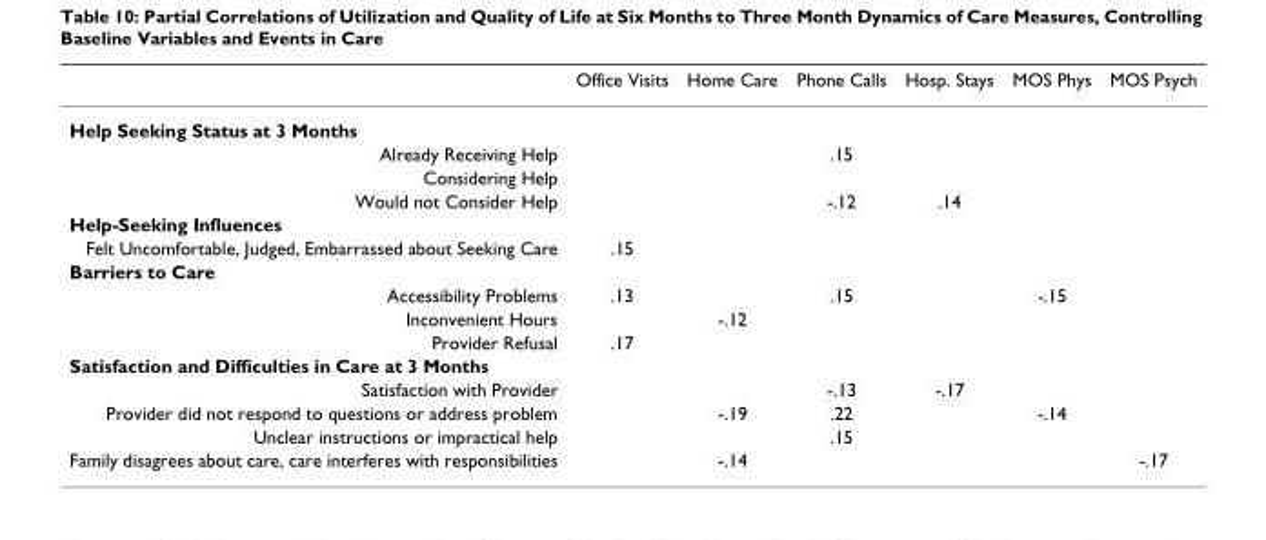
<table><thead><tr><td></td><td>Office Visits</td><td>Home Care</td><td>Phone Calls</td><td>Hosp. Stays</td><td>MOS Phys</td><td>MOS Psych</td></tr></thead><tbody><tr><td colspan="7">Help Seeking Status at 3 Months</td></tr><tr><td>Already Receiving Help</td><td></td><td></td><td>.15</td><td></td><td></td><td></td></tr><tr><td colspan="7">Considering Help</td></tr><tr><td>Would not Consider Help</td><td></td><td></td><td>-.12</td><td>.14</td><td></td><td></td></tr><tr><td colspan="7">Help-Seeking Influences</td></tr><tr><td>Felt Uncomfortable, Judged, Embarrassed about Seeking Care</td><td>.15</td><td></td><td></td><td></td><td></td><td></td></tr><tr><td colspan="7">Barriers to Care</td></tr><tr><td>Accessibility Problems</td><td>.13</td><td></td><td>.15</td><td></td><td>-.15</td><td></td></tr><tr><td>Inconvenient Hours</td><td></td><td>-.12</td><td></td><td></td><td></td><td></td></tr><tr><td>Provider Refusal</td><td>.17</td><td></td><td></td><td></td><td></td><td></td></tr><tr><td colspan="7">Satisfaction and Difficulties in Care at 3 Months</td></tr><tr><td>Satisfaction with Provider</td><td></td><td></td><td>-.13</td><td>-.17</td><td></td><td></td></tr><tr><td>Provider did not respond to questions or address problem</td><td></td><td>-.19</td><td>.22</td><td></td><td>-.14</td><td></td></tr><tr><td>Unclear instructions or impractical help</td><td></td><td></td><td>.15</td><td></td><td></td><td></td></tr><tr><td>Family disagrees about care, care interferes with responsibilities</td><td></td><td>-.14</td><td></td><td></td><td></td><td>-.17</td></tr></tbody></table>